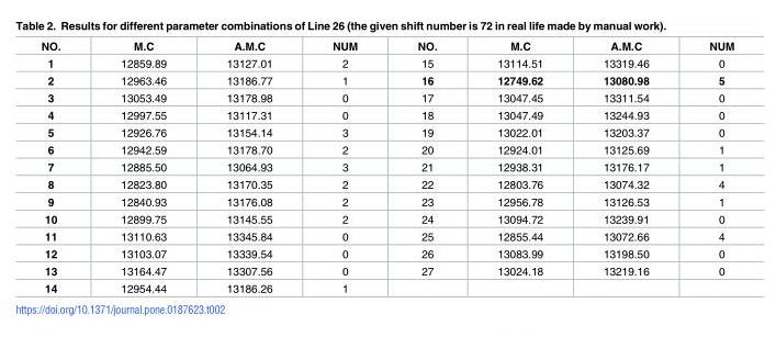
<table><thead><tr><td>NO.</td><td>M.C</td><td>A.M.C</td><td>NUM</td><td>NO.</td><td>M.C</td><td>A.M.C</td><td>NUM</td></tr></thead><tbody><tr><td>1</td><td>12859.89</td><td>13127.01</td><td>2</td><td>15</td><td>13114.51</td><td>13319.46</td><td>0</td></tr><tr><td>2</td><td>12963.46</td><td>13186.77</td><td>1</td><td>16</td><td>12749.62</td><td>13080.98</td><td>5</td></tr><tr><td>3</td><td>13053.49</td><td>13178.98</td><td>0</td><td>17</td><td>13047.45</td><td>13311.54</td><td>0</td></tr><tr><td>4</td><td>12997.55</td><td>13117.31</td><td>0</td><td>18</td><td>13047.49</td><td>13244.93</td><td>0</td></tr><tr><td>5</td><td>12926.76</td><td>13154.14</td><td>3</td><td>19</td><td>13022.01</td><td>13203.37</td><td>0</td></tr><tr><td>6</td><td>12942.59</td><td>13178.70</td><td>2</td><td>20</td><td>12924.01</td><td>13125.69</td><td>1</td></tr><tr><td>7</td><td>12885.50</td><td>13064.93</td><td>3</td><td>21</td><td>12938.31</td><td>13176.17</td><td>1</td></tr><tr><td>8</td><td>12823.80</td><td>13170.35</td><td>2</td><td>22</td><td>12803.76</td><td>13074.32</td><td>4</td></tr><tr><td>9</td><td>12840.93</td><td>13176.08</td><td>2</td><td>23</td><td>12956.78</td><td>13126.53</td><td>1</td></tr><tr><td>10</td><td>12899.75</td><td>13145.55</td><td>2</td><td>24</td><td>13094.72</td><td>13239.91</td><td>0</td></tr><tr><td>11</td><td>13110.63</td><td>13345.84</td><td>0</td><td>25</td><td>12855.44</td><td>13072.66</td><td>4</td></tr><tr><td>12</td><td>13103.07</td><td>13339.54</td><td>0</td><td>26</td><td>13083.99</td><td>13198.50</td><td>0</td></tr><tr><td>13</td><td>13164.47</td><td>13307.56</td><td>0</td><td>27</td><td>13024.18</td><td>13219.16</td><td>0</td></tr><tr><td>14</td><td>12954.44</td><td>13186.26</td><td>1</td><td></td><td></td><td></td><td></td></tr></tbody></table>